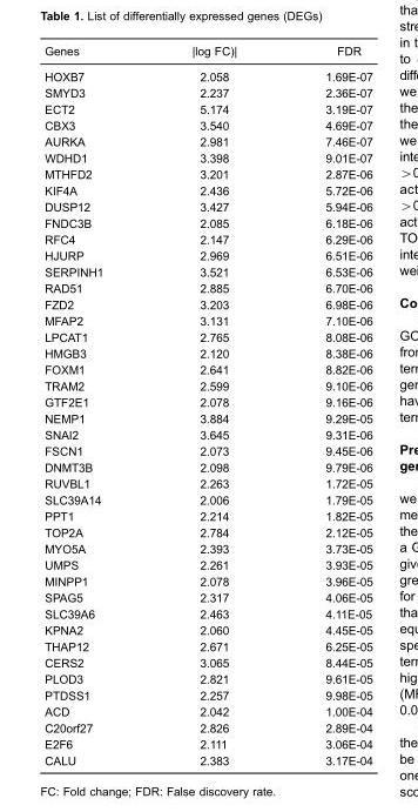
<table><thead><tr><td>Genes</td><td>|log FC)|</td><td>FDR</td></tr></thead><tbody><tr><td>HOXB7</td><td>2.058</td><td>1.69E-07</td></tr><tr><td>SMYD3</td><td>2.237</td><td>2.36E-07</td></tr><tr><td>ECT2</td><td>5.174</td><td>3.19E-07</td></tr><tr><td>CBX3</td><td>3.540</td><td>4.69E-07</td></tr><tr><td>AURKA</td><td>2.981</td><td>7.46E-07</td></tr><tr><td>WDHD1</td><td>3.398</td><td>9.01E-07</td></tr><tr><td>MTHFD2</td><td>3.201</td><td>2.87E-06</td></tr><tr><td>KIF4A</td><td>2.436</td><td>5.72E-06</td></tr><tr><td>DUSP12</td><td>3.427</td><td>5.94E-06</td></tr><tr><td>FNDC3B</td><td>2.085</td><td>6.18E-06</td></tr><tr><td>RFC4</td><td>2.147</td><td>6.29E-06</td></tr><tr><td>HJURP</td><td>2.969</td><td>6.51E-06</td></tr><tr><td>SERPINH1</td><td>3.521</td><td>6.53E-06</td></tr><tr><td>RAD51</td><td>2.885</td><td>6.70E-06</td></tr><tr><td>FZD2</td><td>3.203</td><td>6.98E-06</td></tr><tr><td>MFAP2</td><td>3.131</td><td>7.10E-06</td></tr><tr><td>LPCAT1</td><td>2.765</td><td>8.08E-06</td></tr><tr><td>HMGB3</td><td>2.120</td><td>8.38E-06</td></tr><tr><td>FOXM1</td><td>2.641</td><td>8.82E-06</td></tr><tr><td>TRAM2</td><td>2.599</td><td>9.10E-06</td></tr><tr><td>GTF2E1</td><td>2.078</td><td>9.16E-06</td></tr><tr><td>NEMP1</td><td>3.884</td><td>9.29E-05</td></tr><tr><td>SNAI2</td><td>3.645</td><td>9.31E-06</td></tr><tr><td>FSCN1</td><td>2.073</td><td>9.45E-06</td></tr><tr><td>DNMT3B</td><td>2.098</td><td>9.79E-06</td></tr><tr><td>RUVBL1</td><td>2.263</td><td>1.72E-05</td></tr><tr><td>SLC39A14</td><td>2.006</td><td>1.79E-05</td></tr><tr><td>PPT1</td><td>2.214</td><td>1.82E-05</td></tr><tr><td>TOP2A</td><td>2.784</td><td>2.12E-05</td></tr><tr><td>MYO5A</td><td>2.393</td><td>3.73E-05</td></tr><tr><td>UMPS</td><td>2.261</td><td>3.93E-05</td></tr><tr><td>MINPP1</td><td>2.078</td><td>3.96E-05</td></tr><tr><td>SPAG5</td><td>2.317</td><td>4.06E-05</td></tr><tr><td>SLC39A6</td><td>2.463</td><td>4.11E-05</td></tr><tr><td>KPNA2</td><td>2.060</td><td>4.45E-05</td></tr><tr><td>THAP12</td><td>2.671</td><td>6.25E-05</td></tr><tr><td>CERS2</td><td>3.065</td><td>8.44E-05</td></tr><tr><td>PLOD3</td><td>2.821</td><td>9.61E-05</td></tr><tr><td>PTDSS1</td><td>2.257</td><td>9.98E-05</td></tr><tr><td>ACD</td><td>2.042</td><td>1.00E-04</td></tr><tr><td>C20orf27</td><td>2.826</td><td>2.89E-04</td></tr><tr><td>E2F6</td><td>2.111</td><td>3.06E-04</td></tr><tr><td>CALU</td><td>2.383</td><td>3.17E-04</td></tr></tbody></table>